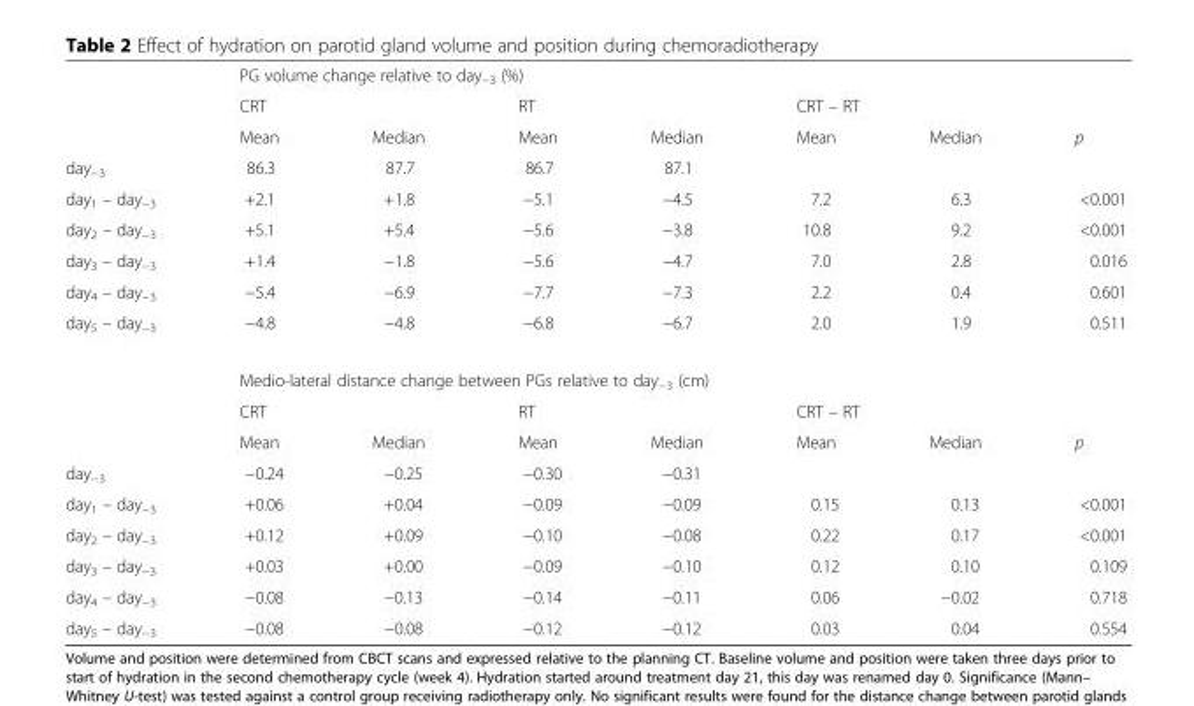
<table><thead><tr><td rowspan="3"></td><td colspan="7">PG volume change relative to day<sub>−3</sub> (%)</td></tr><tr><td colspan="2">CRT</td><td colspan="2">RT</td><td colspan="3">CRT – RT</td></tr><tr><td>Mean</td><td>Median</td><td>Mean</td><td>Median</td><td>Mean</td><td>Median</td><td>p</td></tr></thead><tbody><tr><td>day<sub>−3</sub></td><td>86.3</td><td>87.7</td><td>86.7</td><td>87.1</td><td></td><td></td><td></td></tr><tr><td>day<sub>1</sub> – day<sub>−3</sub></td><td>+2.1</td><td>+1.8</td><td>−5.1</td><td>−4.5</td><td>7.2</td><td>6.3</td><td>&lt;0.001</td></tr><tr><td>day<sub>2</sub> – day<sub>−3</sub></td><td>+5.1</td><td>+5.4</td><td>−5.6</td><td>−3.8</td><td>10.8</td><td>9.2</td><td>&lt;0.001</td></tr><tr><td>day<sub>3</sub> – day<sub>−3</sub></td><td>+1.4</td><td>−1.8</td><td>−5.6</td><td>−4.7</td><td>7.0</td><td>2.8</td><td>0.016</td></tr><tr><td>day<sub>4</sub> – day<sub>−3</sub></td><td>−5.4</td><td>−6.9</td><td>−7.7</td><td>−7.3</td><td>2.2</td><td>0.4</td><td>0.601</td></tr><tr><td rowspan="4">day<sub>5</sub> – day<sub>−3</sub></td><td>−4.8</td><td>−4.8</td><td>−6.8</td><td>−6.7</td><td>2.0</td><td>1.9</td><td>0.511</td></tr><tr><td colspan="7">Medio-lateral distance change between PGs relative to day<sub>−3</sub> (cm)</td></tr><tr><td colspan="2">CRT</td><td colspan="2">RT</td><td colspan="3">CRT – RT</td></tr><tr><td>Mean</td><td>Median</td><td>Mean</td><td>Median</td><td>Mean</td><td>Median</td><td>p</td></tr><tr><td>day<sub>−3</sub></td><td>−0.24</td><td>−0.25</td><td>−0.30</td><td>−0.31</td><td></td><td></td><td></td></tr><tr><td>day<sub>1</sub> – day<sub>−3</sub></td><td>+0.06</td><td>+0.04</td><td>−0.09</td><td>−0.09</td><td>0.15</td><td>0.13</td><td>&lt;0.001</td></tr><tr><td>day<sub>2</sub> – day<sub>−3</sub></td><td>+0.12</td><td>+0.09</td><td>−0.10</td><td>−0.08</td><td>0.22</td><td>0.17</td><td>&lt;0.001</td></tr><tr><td>day<sub>3</sub> – day<sub>−3</sub></td><td>+0.03</td><td>+0.00</td><td>−0.09</td><td>−0.10</td><td>0.12</td><td>0.10</td><td>0.109</td></tr><tr><td>day<sub>4</sub> – day<sub>−3</sub></td><td>−0.08</td><td>−0.13</td><td>−0.14</td><td>−0.11</td><td>0.06</td><td>−0.02</td><td>0.718</td></tr><tr><td>day<sub>5</sub> – day<sub>−3</sub></td><td>−0.08</td><td>−0.08</td><td>−0.12</td><td>−0.12</td><td>0.03</td><td>0.04</td><td>0.554</td></tr></tbody></table>